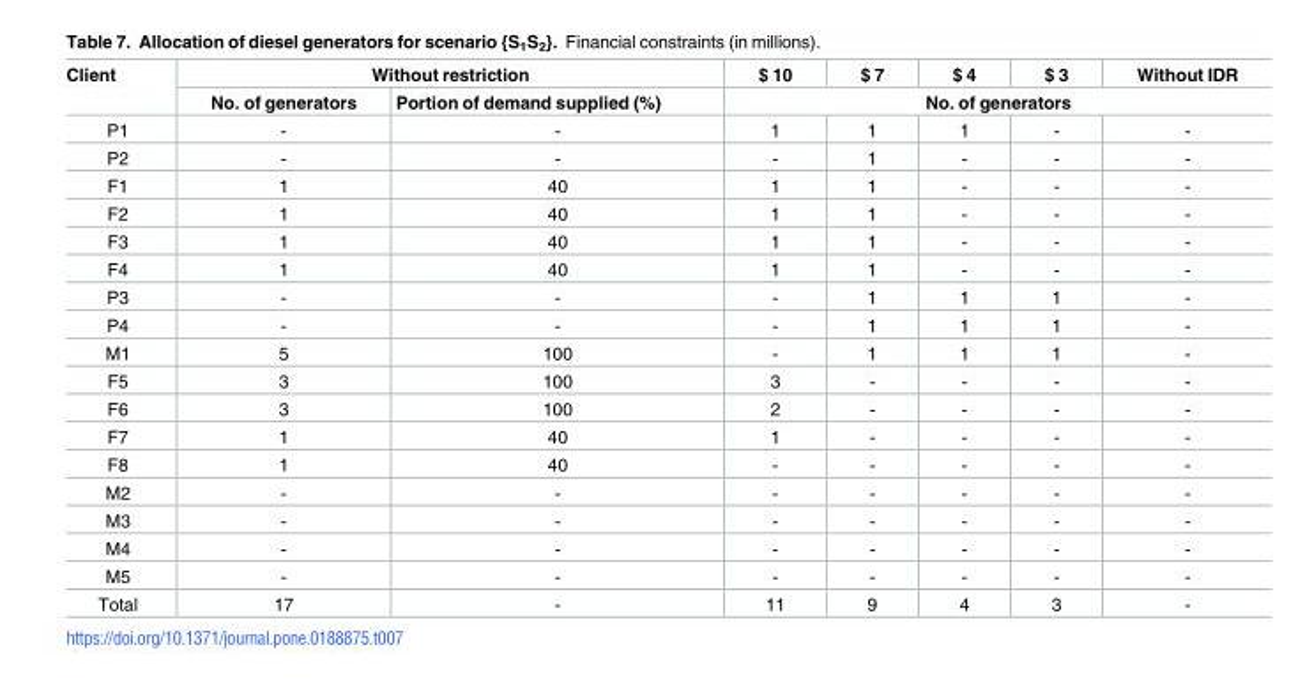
<table><thead><tr><td rowspan="2">Client</td><td colspan="2">Without restriction</td><td>$ 10</td><td>$ 7</td><td>$ 4</td><td>$ 3</td><td>Without IDR</td></tr><tr><td>No. of generators</td><td>Portion of demand supplied (%)</td><td colspan="5">No. of generators</td></tr></thead><tbody><tr><td>P1</td><td>-</td><td>-</td><td>1</td><td>1</td><td>1</td><td>-</td><td>-</td></tr><tr><td>P2</td><td>-</td><td>-</td><td>-</td><td>1</td><td>-</td><td>-</td><td>-</td></tr><tr><td>F1</td><td>1</td><td>40</td><td>1</td><td>1</td><td>-</td><td>-</td><td>-</td></tr><tr><td>F2</td><td>1</td><td>40</td><td>1</td><td>1</td><td>-</td><td>-</td><td>-</td></tr><tr><td>F3</td><td>1</td><td>40</td><td>1</td><td>1</td><td>-</td><td>-</td><td>-</td></tr><tr><td>F4</td><td>1</td><td>40</td><td>1</td><td>1</td><td>-</td><td>-</td><td>-</td></tr><tr><td>P3</td><td>-</td><td>-</td><td>-</td><td>1</td><td>1</td><td>1</td><td>-</td></tr><tr><td>P4</td><td>-</td><td>-</td><td>-</td><td>1</td><td>1</td><td>1</td><td>-</td></tr><tr><td>M1</td><td>5</td><td>100</td><td>-</td><td>1</td><td>1</td><td>1</td><td>-</td></tr><tr><td>F5</td><td>3</td><td>100</td><td>3</td><td>-</td><td>-</td><td>-</td><td>-</td></tr><tr><td>F6</td><td>3</td><td>100</td><td>2</td><td>-</td><td>-</td><td>-</td><td>-</td></tr><tr><td>F7</td><td>1</td><td>40</td><td>1</td><td>-</td><td>-</td><td>-</td><td>-</td></tr><tr><td>F8</td><td>1</td><td>40</td><td>-</td><td>-</td><td>-</td><td>-</td><td>-</td></tr><tr><td>M2</td><td>-</td><td>-</td><td>-</td><td>-</td><td>-</td><td>-</td><td>-</td></tr><tr><td>M3</td><td>-</td><td>-</td><td>-</td><td>-</td><td>-</td><td>-</td><td>-</td></tr><tr><td>M4</td><td>-</td><td>-</td><td>-</td><td>-</td><td>-</td><td>-</td><td>-</td></tr><tr><td>M5</td><td>-</td><td>-</td><td>-</td><td>-</td><td>-</td><td>-</td><td>-</td></tr><tr><td>Total</td><td>17</td><td>-</td><td>11</td><td>9</td><td>4</td><td>3</td><td>-</td></tr></tbody></table>